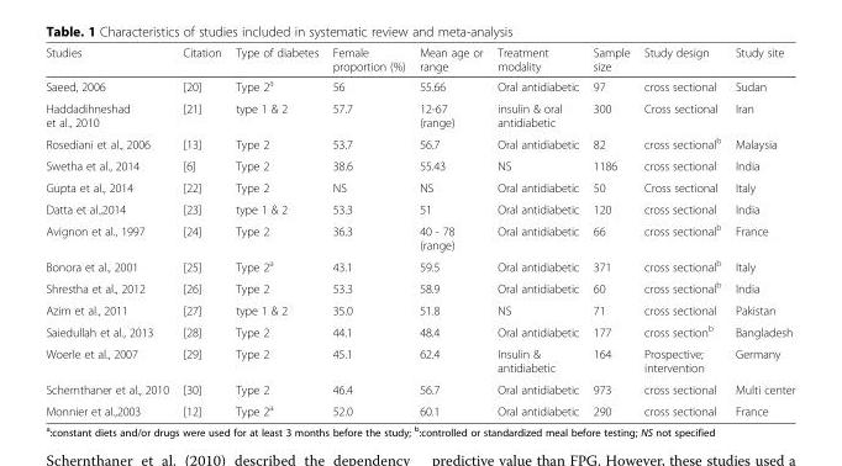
<table><thead><tr><td>Studies</td><td>Citation</td><td>Type of diabetes</td><td>Female proportion (%)</td><td>Mean age or range</td><td>Treatment modality</td><td>Sample size</td><td>Study design</td><td>Study site</td></tr></thead><tbody><tr><td>Saeed, 2006</td><td>[20]</td><td>Type 2<sup>a</sup></td><td>56</td><td>55.66</td><td>Oral antidiabetic</td><td>97</td><td>cross sectional</td><td>Sudan</td></tr><tr><td>Haddadihneshad et al., 2010</td><td>[21]</td><td>type 1 &amp; 2</td><td>57.7</td><td>12-67 (range)</td><td>insulin &amp; oral antidiabetic</td><td>300</td><td>Cross sectional</td><td>Iran</td></tr><tr><td>Rosediani et al., 2006</td><td>[13]</td><td>Type 2</td><td>53.7</td><td>56.7</td><td>Oral antidiabetic</td><td>82</td><td>cross sectional<sup>b</sup></td><td>Malaysia</td></tr><tr><td>Swetha et al., 2014</td><td>[6]</td><td>Type 2</td><td>38.6</td><td>55.43</td><td>NS</td><td>1186</td><td>cross sectional</td><td>India</td></tr><tr><td>Gupta et al., 2014</td><td>[22]</td><td>Type 2</td><td>NS</td><td>NS</td><td>Oral antidiabetic</td><td>50</td><td>Cross sectional</td><td>Italy</td></tr><tr><td>Datta et al.,2014</td><td>[23]</td><td>type 1 &amp; 2</td><td>53.3</td><td>51</td><td>Oral antidiabetic</td><td>120</td><td>cross sectional</td><td>India</td></tr><tr><td>Avignon et al., 1997</td><td>[24]</td><td>Type 2</td><td>36.3</td><td>40 - 78 (range)</td><td>Oral antidiabetic</td><td>66</td><td>cross sectional<sup>b</sup></td><td>France</td></tr><tr><td>Bonora et al., 2001</td><td>[25]</td><td>Type 2<sup>a</sup></td><td>43.1</td><td>59.5</td><td>Oral antidiabetic</td><td>371</td><td>cross sectional<sup>b</sup></td><td>Italy</td></tr><tr><td>Shrestha et al., 2012</td><td>[26]</td><td>Type 2</td><td>53.3</td><td>58.9</td><td>Oral antidiabetic</td><td>60</td><td>cross sectional<sup>b</sup></td><td>India</td></tr><tr><td>Azim et al., 2011</td><td>[27]</td><td>type 1 &amp; 2</td><td>35.0</td><td>51.8</td><td>NS</td><td>71</td><td>cross sectional</td><td>Pakistan</td></tr><tr><td>Saiedullah et al., 2013</td><td>[28]</td><td>Type 2</td><td>44.1</td><td>48.4</td><td>Oral antidiabetic</td><td>177</td><td>cross section<sup>b</sup></td><td>Bangladesh</td></tr><tr><td>Woerle et al., 2007</td><td>[29]</td><td>Type 2</td><td>45.1</td><td>62.4</td><td>Insulin &amp; antidiabetic</td><td>164</td><td>Prospective; intervention</td><td>Germany</td></tr><tr><td>Schernthaner et al., 2010</td><td>[30]</td><td>Type 2</td><td>46.4</td><td>56.7</td><td>Oral antidiabetic</td><td>973</td><td>cross sectional</td><td>Multi center</td></tr><tr><td>Monnier et al.,2003</td><td>[12]</td><td>Type 2<sup>a</sup></td><td>52.0</td><td>60.1</td><td>Oral antidiabetic</td><td>290</td><td>cross sectional</td><td>France</td></tr></tbody></table>